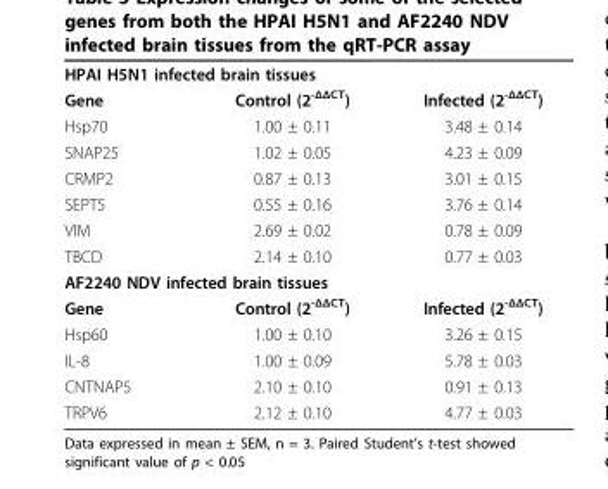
<table><tbody><tr><td colspan="3">HPAI H5N1 infected brain tissues</td></tr><tr><td>Gene</td><td>Control (2<sup>-ΔΔCT</sup>)</td><td>Infected (2<sup>-ΔΔCT</sup>)</td></tr><tr><td>Hsp70</td><td>1.00 ± 0.11</td><td>3.48 ± 0.14</td></tr><tr><td>SNAP25</td><td>1.02 ± 0.05</td><td>4.23 ± 0.09</td></tr><tr><td>CRMP2</td><td>0.87 ± 0.13</td><td>3.01 ± 0.15</td></tr><tr><td>SEPT5</td><td>0.55 ± 0.16</td><td>3.76 ± 0.14</td></tr><tr><td>VIM</td><td>2.69 ± 0.02</td><td>0.78 ± 0.09</td></tr><tr><td>TBCD</td><td>2.14 ± 0.10</td><td>0.77 ± 0.03</td></tr><tr><td colspan="3">AF2240 NDV infected brain tissues</td></tr><tr><td>Gene</td><td>Control (2<sup>-ΔΔCT</sup>)</td><td>Infected (2<sup>-ΔΔCT</sup>)</td></tr><tr><td>Hsp60</td><td>1.00 ± 0.10</td><td>3.26 ± 0.15</td></tr><tr><td>IL-8</td><td>1.00 ± 0.09</td><td>5.78 ± 0.03</td></tr><tr><td>CNTNAP5</td><td>2.10 ± 0.10</td><td>0.91 ± 0.13</td></tr><tr><td>TRPV6</td><td>2.12 ± 0.10</td><td>4.77 ± 0.03</td></tr></tbody></table>